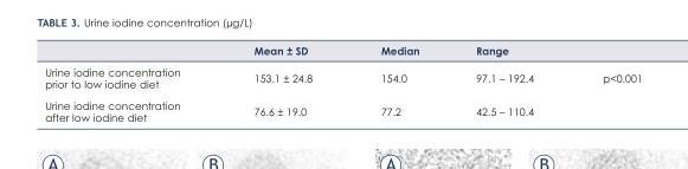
<table><thead><tr><td></td><td>Mean ± SD</td><td>Median</td><td>Range</td><td></td></tr></thead><tbody><tr><td>Urine iodine concentration prior to low iodine diet</td><td>153.1 ± 24.8</td><td>154.0</td><td>97.1 – 192.4</td><td>p&lt;0.001</td></tr><tr><td>Urine iodine concentration after low iodine diet</td><td>76.6 ± 19.0</td><td>77.2</td><td>42.5 – 110.4</td><td></td></tr></tbody></table>